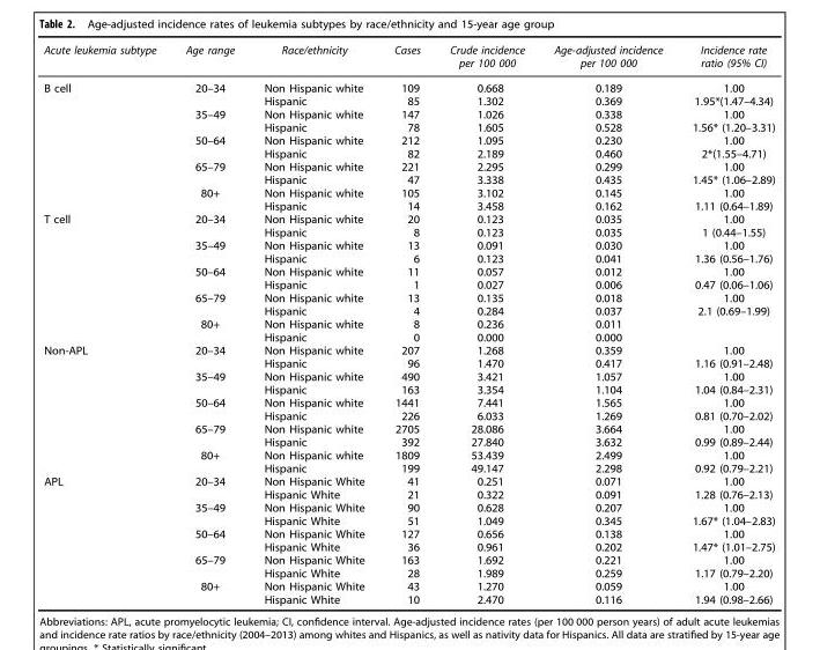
<table><thead><tr><td>Acute leukemia subtype</td><td>Age range</td><td>Race/ethnicity</td><td>Cases</td><td>Crude incidence per 100 000</td><td>Age-adjusted incidence per 100 000</td><td>Incidence rate ratio (95% CI)</td></tr></thead><tbody><tr><td rowspan="10">B cell</td><td>20–34</td><td>Non Hispanic white</td><td>109</td><td>0.668</td><td>0.189</td><td>1.00</td></tr><tr><td></td><td>Hispanic</td><td>85</td><td>1.302</td><td>0.369</td><td>1.95*(1.47–4.34)</td></tr><tr><td>35–49</td><td>Non Hispanic white</td><td>147</td><td>1.026</td><td>0.338</td><td>1.00</td></tr><tr><td></td><td>Hispanic</td><td>78</td><td>1.605</td><td>0.528</td><td>1.56* (1.20–3.31)</td></tr><tr><td>50–64</td><td>Non Hispanic white</td><td>212</td><td>1.095</td><td>0.230</td><td>1.00</td></tr><tr><td></td><td>Hispanic</td><td>82</td><td>2.189</td><td>0.460</td><td>2*(1.55–4.71)</td></tr><tr><td>65–79</td><td>Non Hispanic white</td><td>221</td><td>2.295</td><td>0.299</td><td>1.00</td></tr><tr><td></td><td>Hispanic</td><td>47</td><td>3.338</td><td>0.435</td><td>1.45* (1.06–2.89)</td></tr><tr><td>80+</td><td>Non Hispanic white</td><td>105</td><td>3.102</td><td>0.145</td><td>1.00</td></tr><tr><td></td><td>Hispanic</td><td>14</td><td>3.458</td><td>0.162</td><td>1.11 (0.64–1.89)</td></tr><tr><td rowspan="10">T cell</td><td>20–34</td><td>Non Hispanic white</td><td>20</td><td>0.123</td><td>0.035</td><td>1.00</td></tr><tr><td></td><td>Hispanic</td><td>8</td><td>0.123</td><td>0.035</td><td>1 (0.44–1.55)</td></tr><tr><td>35–49</td><td>Non Hispanic white</td><td>13</td><td>0.091</td><td>0.030</td><td>1.00</td></tr><tr><td></td><td>Hispanic</td><td>6</td><td>0.123</td><td>0.041</td><td>1.36 (0.56–1.76)</td></tr><tr><td>50–64</td><td>Non Hispanic white</td><td>11</td><td>0.057</td><td>0.012</td><td>1.00</td></tr><tr><td></td><td>Hispanic</td><td>1</td><td>0.027</td><td>0.006</td><td>0.47 (0.06–1.06)</td></tr><tr><td>65–79</td><td>Non Hispanic white</td><td>13</td><td>0.135</td><td>0.018</td><td>1.00</td></tr><tr><td></td><td>Hispanic</td><td>4</td><td>0.284</td><td>0.037</td><td>2.1 (0.69–1.99)</td></tr><tr><td>80+</td><td>Non Hispanic white</td><td>8</td><td>0.236</td><td>0.011</td><td></td></tr><tr><td></td><td>Hispanic</td><td>0</td><td>0.000</td><td>0.000</td><td></td></tr><tr><td rowspan="10">Non-APL</td><td>20–34</td><td>Non Hispanic white</td><td>207</td><td>1.268</td><td>0.359</td><td>1.00</td></tr><tr><td></td><td>Hispanic</td><td>96</td><td>1.470</td><td>0.417</td><td>1.16 (0.91–2.48)</td></tr><tr><td>35–49</td><td>Non Hispanic white</td><td>490</td><td>3.421</td><td>1.057</td><td>1.00</td></tr><tr><td></td><td>Hispanic</td><td>163</td><td>3.354</td><td>1.104</td><td>1.04 (0.84–2.31)</td></tr><tr><td>50–64</td><td>Non Hispanic white</td><td>1441</td><td>7.441</td><td>1.565</td><td>1.00</td></tr><tr><td></td><td>Hispanic</td><td>226</td><td>6.033</td><td>1.269</td><td>0.81 (0.70–2.02)</td></tr><tr><td>65–79</td><td>Non Hispanic white</td><td>2705</td><td>28.086</td><td>3.664</td><td>1.00</td></tr><tr><td></td><td>Hispanic</td><td>392</td><td>27.840</td><td>3.632</td><td>0.99 (0.89–2.44)</td></tr><tr><td>80+</td><td>Non Hispanic white</td><td>1809</td><td>53.439</td><td>2.499</td><td>1.00</td></tr><tr><td></td><td>Hispanic</td><td>199</td><td>49.147</td><td>2.298</td><td>0.92 (0.79–2.21)</td></tr><tr><td rowspan="10">APL</td><td>20–34</td><td>Non Hispanic White</td><td>41</td><td>0.251</td><td>0.071</td><td>1.00</td></tr><tr><td></td><td>Hispanic White</td><td>21</td><td>0.322</td><td>0.091</td><td>1.28 (0.76–2.13)</td></tr><tr><td>35–49</td><td>Non Hispanic White</td><td>90</td><td>0.628</td><td>0.207</td><td>1.00</td></tr><tr><td></td><td>Hispanic White</td><td>51</td><td>1.049</td><td>0.345</td><td>1.67* (1.04–2.83)</td></tr><tr><td>50–64</td><td>Non Hispanic White</td><td>127</td><td>0.656</td><td>0.138</td><td>1.00</td></tr><tr><td></td><td>Hispanic White</td><td>36</td><td>0.961</td><td>0.202</td><td>1.47* (1.01–2.75)</td></tr><tr><td>65–79</td><td>Non Hispanic White</td><td>163</td><td>1.692</td><td>0.221</td><td>1.00</td></tr><tr><td></td><td>Hispanic White</td><td>28</td><td>1.989</td><td>0.259</td><td>1.17 (0.79–2.20)</td></tr><tr><td>80+</td><td>Non Hispanic White</td><td>43</td><td>1.270</td><td>0.059</td><td>1.00</td></tr><tr><td></td><td>Hispanic White</td><td>10</td><td>2.470</td><td>0.116</td><td>1.94 (0.98–2.66)</td></tr></tbody></table>